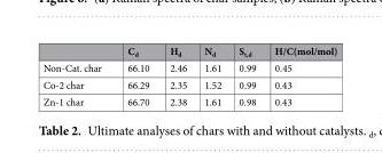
<table><thead><tr><td></td><td>C<sub>d</sub></td><td>H<sub>d</sub></td><td>N<sub>d</sub></td><td>S<sub>t,d</sub></td><td>H/C(mol/mol)</td></tr></thead><tbody><tr><td>Non-Cat. char</td><td>66.10</td><td>2.46</td><td>1.61</td><td>0.99</td><td>0.45</td></tr><tr><td>Co-2 char</td><td>66.29</td><td>2.35</td><td>1.52</td><td>0.99</td><td>0.43</td></tr><tr><td>Zn-1 char</td><td>66.70</td><td>2.38</td><td>1.61</td><td>0.98</td><td>0.43</td></tr></tbody></table>